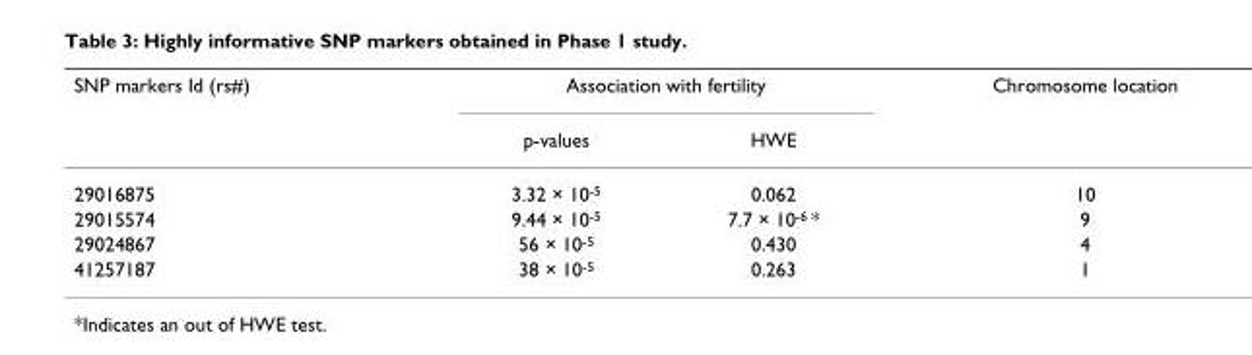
<table><thead><tr><td rowspan="2">SNP markers Id (rs#)</td><td colspan="2">Association with fertility</td><td rowspan="2">Chromosome location</td></tr><tr><td>p-values</td><td>HWE</td></tr></thead><tbody><tr><td>29016875</td><td>3.32 × 10<sup>-5</sup></td><td>0.062</td><td>10</td></tr><tr><td>29015574</td><td>9.44 × 10<sup>-5</sup></td><td>7.7 × 10<sup>-6</sup> *</td><td>9</td></tr><tr><td>29024867</td><td>56 × 10<sup>-5</sup></td><td>0.430</td><td>4</td></tr><tr><td>41257187</td><td>38 × 10<sup>-5</sup></td><td>0.263</td><td>1</td></tr></tbody></table>